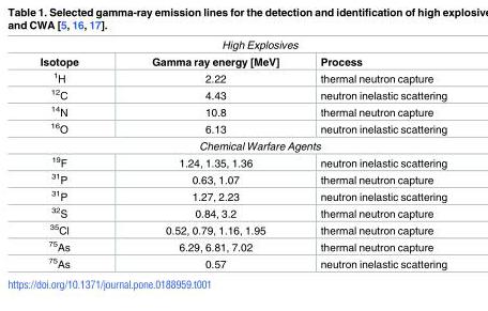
<table><tbody><tr><td colspan="3">High Explosives</td></tr><tr><td>Isotope</td><td>Gamma ray energy [MeV]</td><td>Process</td></tr><tr><td><sup>1</sup>H</td><td>2.22</td><td>thermal neutron capture</td></tr><tr><td><sup>12</sup>C</td><td>4.43</td><td>neutron inelastic scattering</td></tr><tr><td><sup>14</sup>N</td><td>10.8</td><td>thermal neutron capture</td></tr><tr><td><sup>16</sup>O</td><td>6.13</td><td>neutron inelastic scattering</td></tr><tr><td colspan="3">Chemical Warfare Agents</td></tr><tr><td><sup>19</sup>F</td><td>1.24, 1.35, 1.36</td><td>neutron inelastic scattering</td></tr><tr><td><sup>31</sup>P</td><td>0.63, 1.07</td><td>thermal neutron capture</td></tr><tr><td><sup>31</sup>P</td><td>1.27, 2.23</td><td>neutron inelastic scattering</td></tr><tr><td><sup>32</sup>S</td><td>0.84, 3.2</td><td>thermal neutron capture</td></tr><tr><td><sup>35</sup>Cl</td><td>0.52, 0.79, 1.16, 1.95</td><td>thermal neutron capture</td></tr><tr><td><sup>75</sup>As</td><td>6.29, 6.81, 7.02</td><td>thermal neutron capture</td></tr><tr><td><sup>75</sup>As</td><td>0.57</td><td>neutron inelastic scattering</td></tr></tbody></table>